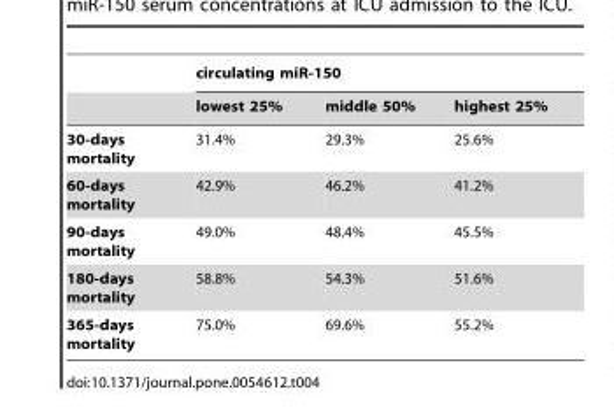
<table><thead><tr><td rowspan="2"></td><td colspan="3">circulating miR-150</td></tr><tr><td>lowest 25%</td><td>middle 50%</td><td>highest 25%</td></tr></thead><tbody><tr><td>30-days mortality</td><td>31.4%</td><td>29.3%</td><td>25.6%</td></tr><tr><td>60-days mortality</td><td>42.9%</td><td>46.2%</td><td>41.2%</td></tr><tr><td>90-days mortality</td><td>49.0%</td><td>48.4%</td><td>45.5%</td></tr><tr><td>180-days mortality</td><td>58.8%</td><td>54.3%</td><td>51.6%</td></tr><tr><td>365-days mortality</td><td>75.0%</td><td>69.6%</td><td>55.2%</td></tr></tbody></table>